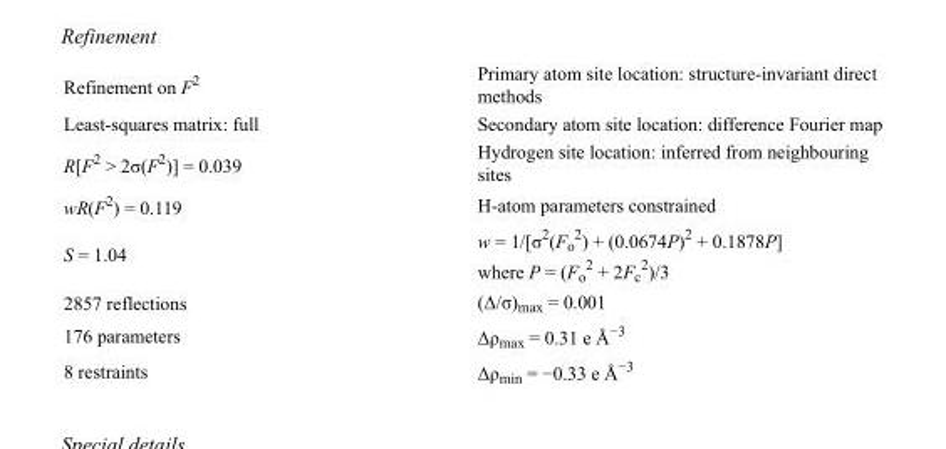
<table><tbody><tr><td>Refinement on F<sup>2</sup></td><td>Primary atom site location: structure-invariant direct methods</td></tr><tr><td>Least-squares matrix: full</td><td>Secondary atom site location: difference Fourier map</td></tr><tr><td>R[F<sup>2</sup> &gt; 2σ(F<sup>2</sup>)] = 0.039</td><td>Hydrogen site location: inferred from neighbouring sites</td></tr><tr><td>wR(F<sup>2</sup>) = 0.119</td><td>H-atom parameters constrained</td></tr><tr><td>S = 1.04</td><td>w = 1/[σ<sup>2</sup>(F<sub>o</sub> <sup>2</sup>) + (0.0674P)<sup>2</sup> + 0.1878P] where P = (F<sub>o</sub> <sup>2</sup> + 2F<sub>c</sub> <sup>2</sup>)/3</td></tr><tr><td>2857 reflections</td><td>(Δ/σ)<sub>max</sub> = 0.001</td></tr><tr><td>176 parameters</td><td>Δρ<sub>max</sub> = 0.31 e Å<sup>−3</sup></td></tr><tr><td>8 restraints</td><td>Δρ<sub>min</sub> = −0.33 e Å<sup>−3</sup></td></tr></tbody></table>